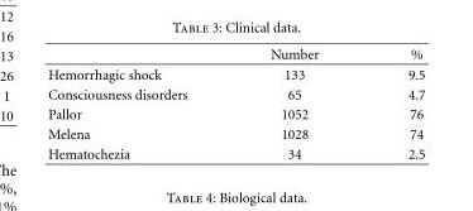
<table><thead><tr><td></td><td>Number</td><td>%</td></tr></thead><tbody><tr><td>Hemorrhagic shock</td><td>133</td><td>9.5</td></tr><tr><td>Consciousness disorders</td><td>65</td><td>4.7</td></tr><tr><td>Pallor</td><td>1052</td><td>76</td></tr><tr><td>Melena</td><td>1028</td><td>74</td></tr><tr><td>Hematochezia</td><td>34</td><td>2.5</td></tr></tbody></table>